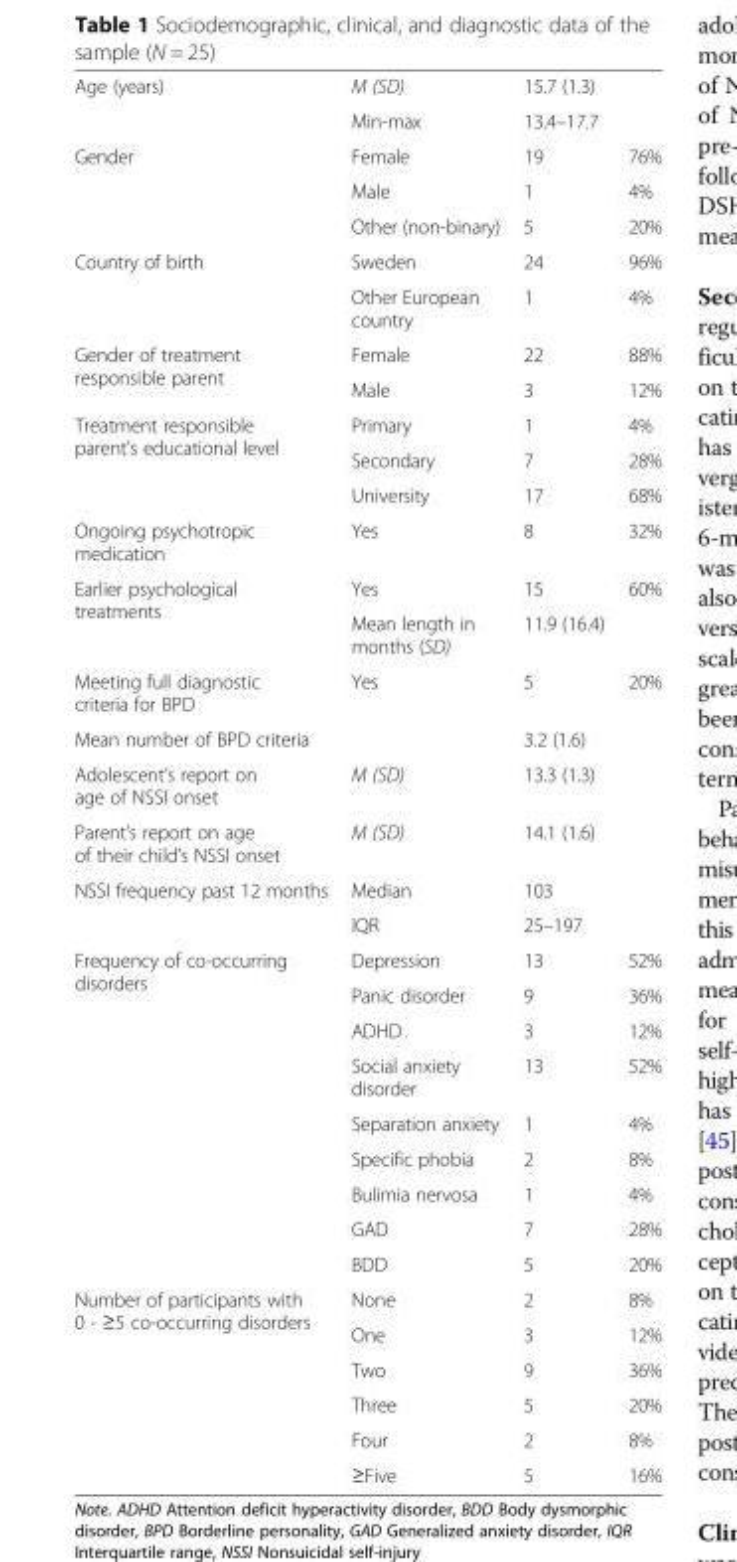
<table><tbody><tr><td rowspan="2">Age (years)</td><td>M (SD)</td><td>15.7 (1.3)</td><td></td></tr><tr><td>Min-max</td><td>13.4–17.7</td><td></td></tr><tr><td rowspan="3">Gender</td><td>Female</td><td>19</td><td>76%</td></tr><tr><td>Male</td><td>1</td><td>4%</td></tr><tr><td>Other (non-binary)</td><td>5</td><td>20%</td></tr><tr><td rowspan="2">Country of birth</td><td>Sweden</td><td>24</td><td>96%</td></tr><tr><td>Other European country</td><td>1</td><td>4%</td></tr><tr><td rowspan="2">Gender of treatment responsible parent</td><td>Female</td><td>22</td><td>88%</td></tr><tr><td>Male</td><td>3</td><td>12%</td></tr><tr><td rowspan="3">Treatment responsible parent’s educational level</td><td>Primary</td><td>1</td><td>4%</td></tr><tr><td>Secondary</td><td>7</td><td>28%</td></tr><tr><td>University</td><td>17</td><td>68%</td></tr><tr><td>Ongoing psychotropic medication</td><td>Yes</td><td>8</td><td>32%</td></tr><tr><td rowspan="2">Earlier psychological treatments</td><td>Yes</td><td>15</td><td>60%</td></tr><tr><td>Mean length in months (SD)</td><td>11.9 (16.4)</td><td></td></tr><tr><td>Meeting full diagnostic criteria for BPD</td><td>Yes</td><td>5</td><td>20%</td></tr><tr><td>Mean number of BPD criteria</td><td></td><td>3.2 (1.6)</td><td></td></tr><tr><td>Adolescent’s report on age of NSSI onset</td><td>M (SD)</td><td>13.3 (1.3)</td><td></td></tr><tr><td>Parent’s report on age of their child’s NSSI onset</td><td>M (SD)</td><td>14.1 (1.6)</td><td></td></tr><tr><td rowspan="2">NSSI frequency past 12 months</td><td>Median</td><td>103</td><td></td></tr><tr><td>IQR</td><td>25–197</td><td></td></tr><tr><td rowspan="9">Frequency of co-occurring disorders</td><td>Depression</td><td>13</td><td>52%</td></tr><tr><td>Panic disorder</td><td>9</td><td>36%</td></tr><tr><td>ADHD</td><td>3</td><td>12%</td></tr><tr><td>Social anxiety disorder</td><td>13</td><td>52%</td></tr><tr><td>Separation anxiety</td><td>1</td><td>4%</td></tr><tr><td>Specific phobia</td><td>2</td><td>8%</td></tr><tr><td>Bulimia nervosa</td><td>1</td><td>4%</td></tr><tr><td>GAD</td><td>7</td><td>28%</td></tr><tr><td>BDD</td><td>5</td><td>20%</td></tr><tr><td rowspan="6">Number of participants with 0 - ≥5 co-occurring disorders</td><td>None</td><td>2</td><td>8%</td></tr><tr><td>One</td><td>3</td><td>12%</td></tr><tr><td>Two</td><td>9</td><td>36%</td></tr><tr><td>Three</td><td>5</td><td>20%</td></tr><tr><td>Four</td><td>2</td><td>8%</td></tr><tr><td>≥Five</td><td>5</td><td>16%</td></tr></tbody></table>